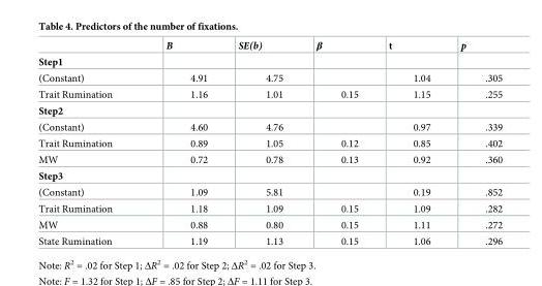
<table><thead><tr><td></td><td>B</td><td>SE(b)</td><td>β</td><td>t</td><td>p</td></tr></thead><tbody><tr><td colspan="6">Step1</td></tr><tr><td>(Constant)</td><td>4.91</td><td>4.75</td><td></td><td>1.04</td><td>.305</td></tr><tr><td>Trait Rumination</td><td>1.16</td><td>1.01</td><td>0.15</td><td>1.15</td><td>.255</td></tr><tr><td colspan="6">Step2</td></tr><tr><td>(Constant)</td><td>4.60</td><td>4.76</td><td></td><td>0.97</td><td>.339</td></tr><tr><td>Trait Rumination</td><td>0.89</td><td>1.05</td><td>0.12</td><td>0.85</td><td>.402</td></tr><tr><td>MW</td><td>0.72</td><td>0.78</td><td>0.13</td><td>0.92</td><td>.360</td></tr><tr><td colspan="6">Step3</td></tr><tr><td>(Constant)</td><td>1.09</td><td>5.81</td><td></td><td>0.19</td><td>.852</td></tr><tr><td>Trait Rumination</td><td>1.18</td><td>1.09</td><td>0.15</td><td>1.09</td><td>.282</td></tr><tr><td>MW</td><td>0.88</td><td>0.80</td><td>0.15</td><td>1.11</td><td>.272</td></tr><tr><td>State Rumination</td><td>1.19</td><td>1.13</td><td>0.15</td><td>1.06</td><td>.296</td></tr></tbody></table>